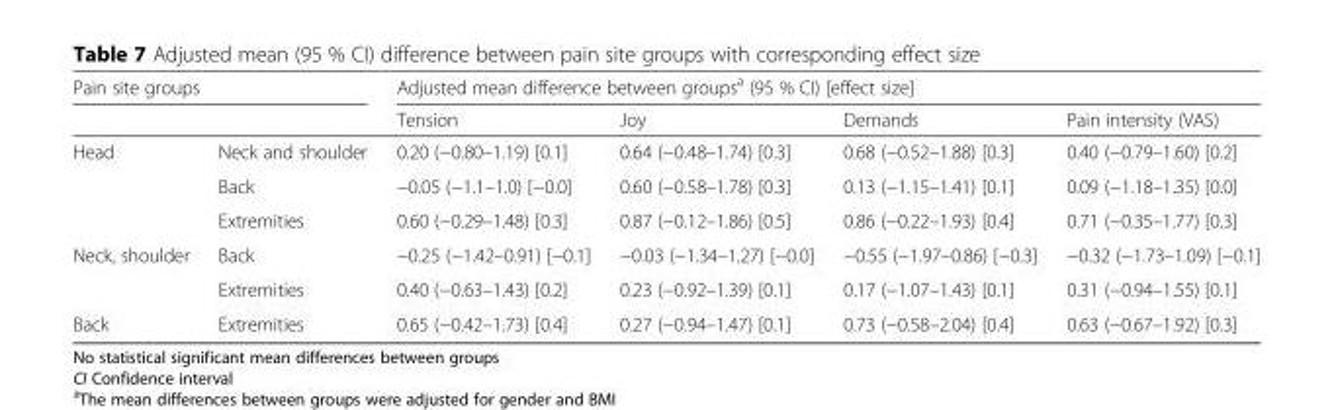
<table><thead><tr><td colspan="2">Pain site groups</td><td colspan="4">Adjusted mean difference between groups<sup>a</sup> (95 % CI) [effect size]</td></tr><tr><td></td><td></td><td>Tension</td><td>Joy</td><td>Demands</td><td>Pain intensity (VAS)</td></tr></thead><tbody><tr><td rowspan="3">Head</td><td>Neck and shoulder</td><td>0.20 (−0.80–1.19) [0.1]</td><td>0.64 (−0.48–1.74) [0.3]</td><td>0.68 (−0.52–1.88) [0.3]</td><td>0.40 (−0.79–1.60) [0.2]</td></tr><tr><td>Back</td><td>−0.05 (−1.1–1.0) [−0.0]</td><td>0.60 (−0.58–1.78) [0.3]</td><td>0.13 (−1.15–1.41) [0.1]</td><td>0.09 (−1.18–1.35) [0.0]</td></tr><tr><td>Extremities</td><td>0.60 (−0.29–1.48) [0.3]</td><td>0.87 (−0.12–1.86) [0.5]</td><td>0.86 (−0.22–1.93) [0.4]</td><td>0.71 (−0.35–1.77) [0.3]</td></tr><tr><td rowspan="2">Neck, shoulder</td><td>Back</td><td>−0.25 (−1.42–0.91) [−0.1]</td><td>−0.03 (−1.34–1.27) [−0.0]</td><td>−0.55 (−1.97–0.86) [−0.3]</td><td>−0.32 (−1.73–1.09) [−0.1]</td></tr><tr><td>Extremities</td><td>0.40 (−0.63–1.43) [0.2]</td><td>0.23 (−0.92–1.39) [0.1]</td><td>0.17 (−1.07–1.43) [0.1]</td><td>0.31 (−0.94–1.55) [0.1]</td></tr><tr><td>Back</td><td>Extremities</td><td>0.65 (−0.42–1.73) [0.4]</td><td>0.27 (−0.94–1.47) [0.1]</td><td>0.73 (−0.58–2.04) [0.4]</td><td>0.63 (−0.67–1.92) [0.3]</td></tr></tbody></table>